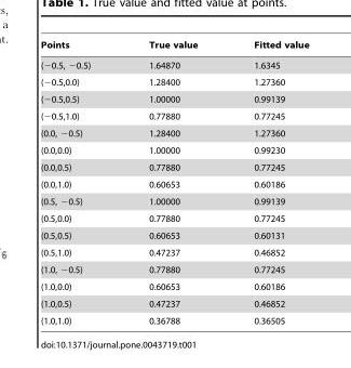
<table><thead><tr><td>Points</td><td>True value</td><td>Fitted value</td></tr></thead><tbody><tr><td>(−0.5, −0.5)</td><td>1.64870</td><td>1.6345</td></tr><tr><td>(−0.5,0.0)</td><td>1.28400</td><td>1.27360</td></tr><tr><td>(−0.5,0.5)</td><td>1.00000</td><td>0.99139</td></tr><tr><td>(−0.5,1.0)</td><td>0.77880</td><td>0.77245</td></tr><tr><td>(0.0, −0.5)</td><td>1.28400</td><td>1.27360</td></tr><tr><td>(0.0,0.0)</td><td>1.00000</td><td>0.99230</td></tr><tr><td>(0.0,0.5)</td><td>0.77880</td><td>0.77245</td></tr><tr><td>(0.0,1.0)</td><td>0.60653</td><td>0.60186</td></tr><tr><td>(0.5, −0.5)</td><td>1.00000</td><td>0.99139</td></tr><tr><td>(0.5,0.0)</td><td>0.77880</td><td>0.77245</td></tr><tr><td>(0.5,0.5)</td><td>0.60653</td><td>0.60131</td></tr><tr><td>(0.5,1.0)</td><td>0.47237</td><td>0.46852</td></tr><tr><td>(1.0, −0.5)</td><td>0.77880</td><td>0.77245</td></tr><tr><td>(1.0,0.0)</td><td>0.60653</td><td>0.60186</td></tr><tr><td>(1.0,0.5)</td><td>0.47237</td><td>0.46852</td></tr><tr><td>(1.0,1.0)</td><td>0.36788</td><td>0.36505</td></tr></tbody></table>